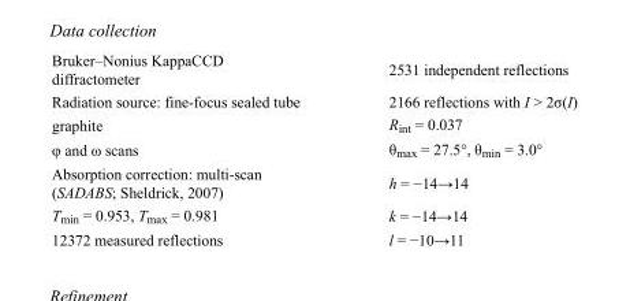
<table><tbody><tr><td>Bruker–Nonius KappaCCD diffractometer</td><td>2531 independent reflections</td></tr><tr><td>Radiation source: fine-focus sealed tube</td><td>2166 reflections with I &gt; 2σ(I)</td></tr><tr><td>graphite</td><td>R<sub>int</sub> = 0.037</td></tr><tr><td>φ and ω scans</td><td>θ<sub>max</sub> = 27.5°, θ<sub>min</sub> = 3.0°</td></tr><tr><td>Absorption correction: multi-scan (SADABS; Sheldrick, 2007)</td><td>h = −14→14</td></tr><tr><td>T<sub>min</sub> = 0.953, T<sub>max</sub> = 0.981</td><td>k = −14→14</td></tr><tr><td>12372 measured reflections</td><td>l = −10→11</td></tr></tbody></table>